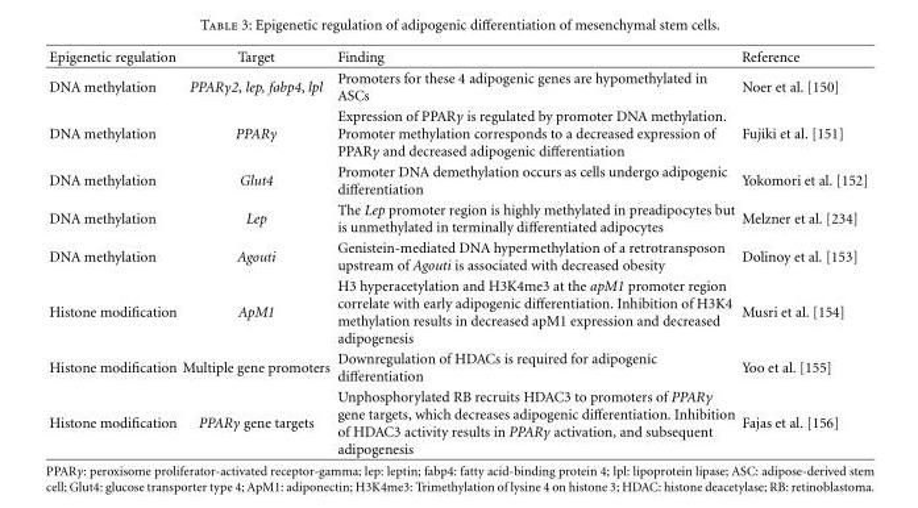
<table><thead><tr><td>Epigenetic regulation</td><td>Target</td><td>Finding</td><td>Reference</td></tr></thead><tbody><tr><td>DNA methylation</td><td>PPARγ2, lep, fabp4, lpl</td><td>Promoters for these 4 adipogenic genes are hypomethylated in ASCs</td><td>Noer et al. [150]</td></tr><tr><td>DNA methylation</td><td>PPARγ</td><td>Expression of PPARγ is regulated by promoter DNA methylation. Promoter methylation corresponds to a decreased expression of PPARγ and decreased adipogenic differentiation</td><td>Fujiki et al. [151]</td></tr><tr><td>DNA methylation</td><td>Glut4</td><td>Promoter DNA demethylation occurs as cells undergo adipogenic differentiation</td><td>Yokomori et al. [152]</td></tr><tr><td>DNA methylation</td><td>Lep</td><td>The Lep promoter region is highly methylated in preadipocytes but is unmethylated in terminally differentiated adipocytes</td><td>Melzner et al. [234]</td></tr><tr><td>DNA methylation</td><td>Agouti</td><td>Genistein-mediated DNA hypermethylation of a retrotransposon upstream of Agouti is associated with decreased obesity</td><td>Dolinoy et al. [153]</td></tr><tr><td>Histone modification</td><td>ApM1</td><td>H3 hyperacetylation and H3K4me3 at the apM1 promoter region correlate with early adipogenic differentiation. Inhibition of H3K4 methylation results in decreased apM1 expression and decreased adipogenesis</td><td>Musri et al. [154]</td></tr><tr><td>Histone modification</td><td>Multiple gene promoters</td><td>Downregulation of HDACs is required for adipogenic differentiation</td><td>Yoo et al. [155]</td></tr><tr><td>Histone modification</td><td>PPARγ gene targets</td><td>Unphosphorylated RB recruits HDAC3 to promoters of PPARγ gene targets, which decreases adipogenic differentiation. Inhibition of HDAC3 activity results in PPARγ activation, and subsequent adipogenesis</td><td>Fajas et al. [156]</td></tr></tbody></table>